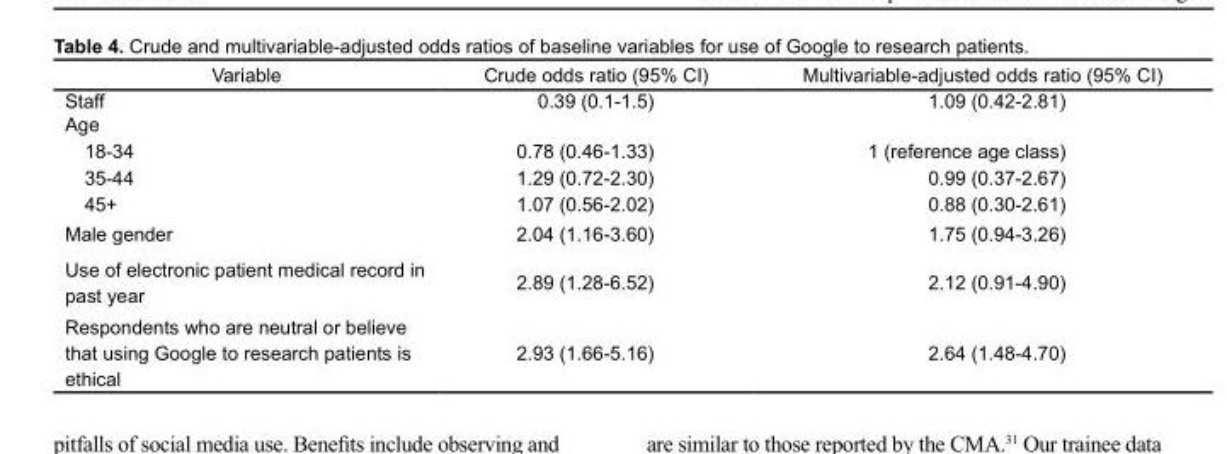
<table><thead><tr><td>Variable</td><td>Crude odds ratio (95% CI)</td><td>Multivariable-adjusted odds ratio (95% CI)</td></tr></thead><tbody><tr><td>Staff</td><td>0.39 (0.1-1.5)</td><td>1.09 (0.42-2.81)</td></tr><tr><td colspan="3">Age</td></tr><tr><td>18-34</td><td>0.78 (0.46-1.33)</td><td>1 (reference age class)</td></tr><tr><td>35-44</td><td>1.29 (0.72-2.30)</td><td>0.99 (0.37-2.67)</td></tr><tr><td>45+</td><td>1.07 (0.56-2.02)</td><td>0.88 (0.30-2.61)</td></tr><tr><td>Male gender</td><td>2.04 (1.16-3.60)</td><td>1.75 (0.94-3.26)</td></tr><tr><td>Use of electronic patient medical record in past year</td><td>2.89 (1.28-6.52)</td><td>2.12 (0.91-4.90)</td></tr><tr><td>Respondents who are neutral or believe that using Google to research patients is ethical</td><td>2.93 (1.66-5.16)</td><td>2.64 (1.48-4.70)</td></tr></tbody></table>